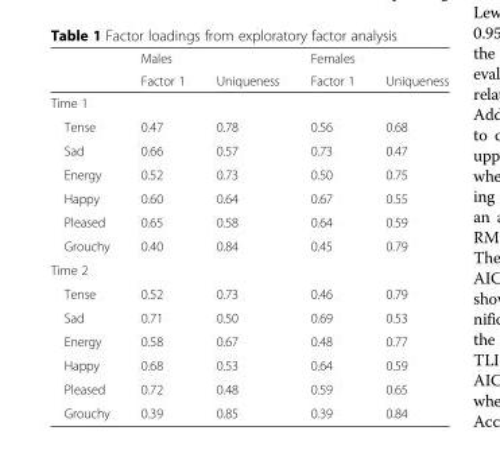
<table><thead><tr><td rowspan="2"></td><td rowspan="2">Males Factor 1</td><td rowspan="2">Uniqueness</td><td rowspan="2">Females Factor 1</td><td rowspan="2">Uniqueness</td></tr><tr></tr></thead><tbody><tr><td colspan="5">Time 1</td></tr><tr><td>Tense</td><td>0.47</td><td>0.78</td><td>0.56</td><td>0.68</td></tr><tr><td>Sad</td><td>0.66</td><td>0.57</td><td>0.73</td><td>0.47</td></tr><tr><td>Energy</td><td>0.52</td><td>0.73</td><td>0.50</td><td>0.75</td></tr><tr><td>Happy</td><td>0.60</td><td>0.64</td><td>0.67</td><td>0.55</td></tr><tr><td>Pleased</td><td>0.65</td><td>0.58</td><td>0.64</td><td>0.59</td></tr><tr><td>Grouchy</td><td>0.40</td><td>0.84</td><td>0.45</td><td>0.79</td></tr><tr><td colspan="5">Time 2</td></tr><tr><td>Tense</td><td>0.52</td><td>0.73</td><td>0.46</td><td>0.79</td></tr><tr><td>Sad</td><td>0.71</td><td>0.50</td><td>0.69</td><td>0.53</td></tr><tr><td>Energy</td><td>0.58</td><td>0.67</td><td>0.48</td><td>0.77</td></tr><tr><td>Happy</td><td>0.68</td><td>0.53</td><td>0.64</td><td>0.59</td></tr><tr><td>Pleased</td><td>0.72</td><td>0.48</td><td>0.59</td><td>0.65</td></tr><tr><td>Grouchy</td><td>0.39</td><td>0.85</td><td>0.39</td><td>0.84</td></tr></tbody></table>